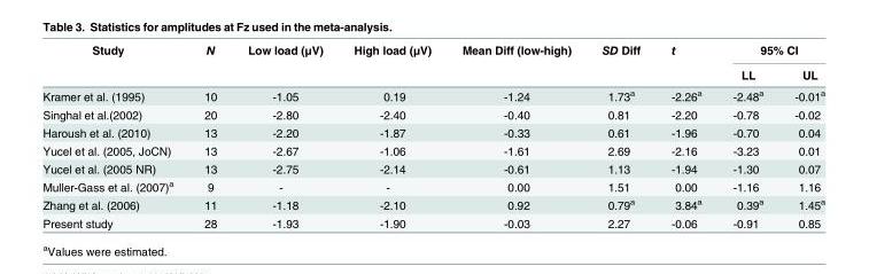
<table><thead><tr><td rowspan="2">Study</td><td rowspan="2">N</td><td rowspan="2">Low load (μV)</td><td rowspan="2">High load (μV)</td><td rowspan="2">Mean Diff (low-high)</td><td rowspan="2">SD Diff</td><td rowspan="2">t</td><td colspan="2">95% CI</td></tr><tr><td>LL</td><td>UL</td></tr></thead><tbody><tr><td>Kramer et al. (1995)</td><td>10</td><td>-1.05</td><td>0.19</td><td>-1.24</td><td>1.73<sup>a</sup></td><td>-2.26<sup>a</sup></td><td>-2.48<sup>a</sup></td><td>-0.01<sup>a</sup></td></tr><tr><td>Singhal et al.(2002)</td><td>20</td><td>-2.80</td><td>-2.40</td><td>-0.40</td><td>0.81</td><td>-2.20</td><td>-0.78</td><td>-0.02</td></tr><tr><td>Haroush et al. (2010)</td><td>13</td><td>-2.20</td><td>-1.87</td><td>-0.33</td><td>0.61</td><td>-1.96</td><td>-0.70</td><td>0.04</td></tr><tr><td>Yucel et al. (2005, JoCN)</td><td>13</td><td>-2.67</td><td>-1.06</td><td>-1.61</td><td>2.69</td><td>-2.16</td><td>-3.23</td><td>0.01</td></tr><tr><td>Yucel et al. (2005 NR)</td><td>13</td><td>-2.75</td><td>-2.14</td><td>-0.61</td><td>1.13</td><td>-1.94</td><td>-1.30</td><td>0.07</td></tr><tr><td>Muller-Gass et al. (2007)<sup>a</sup></td><td>9</td><td>-</td><td>-</td><td>0.00</td><td>1.51</td><td>0.00</td><td>-1.16</td><td>1.16</td></tr><tr><td>Zhang et al. (2006)</td><td>11</td><td>-1.18</td><td>-2.10</td><td>0.92</td><td>0.79<sup>a</sup></td><td>3.84<sup>a</sup></td><td>0.39<sup>a</sup></td><td>1.45<sup>a</sup></td></tr><tr><td>Present study</td><td>28</td><td>-1.93</td><td>-1.90</td><td>-0.03</td><td>2.27</td><td>-0.06</td><td>-0.91</td><td>0.85</td></tr></tbody></table>